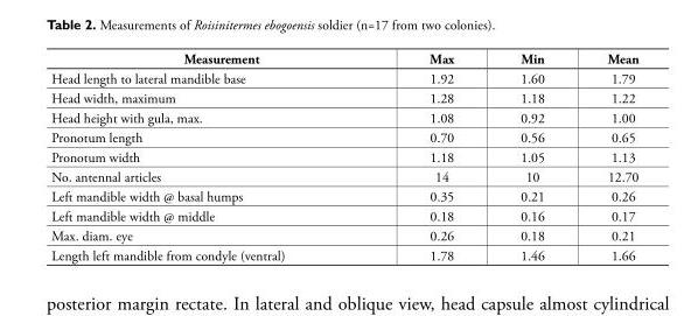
<table><thead><tr><td>Measurement</td><td>Max</td><td>Min</td><td>Mean</td></tr></thead><tbody><tr><td>Head length to lateral mandible base</td><td>1.92</td><td>1.60</td><td>1.79</td></tr><tr><td>Head width, maximum</td><td>1.28</td><td>1.18</td><td>1.22</td></tr><tr><td>Head height with gula, max.</td><td>1.08</td><td>0.92</td><td>1.00</td></tr><tr><td>Pronotum length</td><td>0.70</td><td>0.56</td><td>0.65</td></tr><tr><td>Pronotum width</td><td>1.18</td><td>1.05</td><td>1.13</td></tr><tr><td>No. antennal articles</td><td>14</td><td>10</td><td>12.70</td></tr><tr><td>Left mandible width @ basal humps</td><td>0.35</td><td>0.21</td><td>0.26</td></tr><tr><td>Left mandible width @ middle</td><td>0.18</td><td>0.16</td><td>0.17</td></tr><tr><td>Max. diam. eye</td><td>0.26</td><td>0.18</td><td>0.21</td></tr><tr><td>Length left mandible from condyle (ventral)</td><td>1.78</td><td>1.46</td><td>1.66</td></tr></tbody></table>